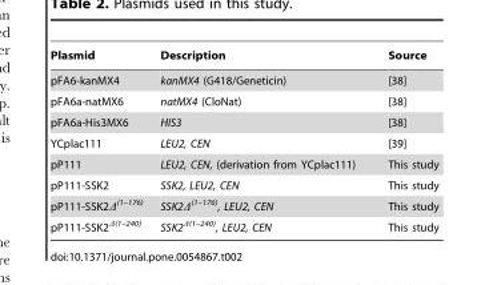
<table><thead><tr><td>Plasmid</td><td>Description</td><td>Source</td></tr></thead><tbody><tr><td>pFA6-kanMX4</td><td>kanMX4 (G418/Geneticin)</td><td>[38]</td></tr><tr><td>pFA6a-natMX6</td><td>natMX4 (CloNat)</td><td>[38]</td></tr><tr><td>pFA6a-His3MX6</td><td>HIS3</td><td>[38]</td></tr><tr><td>YCplac111</td><td>LEU2, CEN</td><td>[39]</td></tr><tr><td>pP111</td><td>LEU2, CEN, (derivation from YCplac111)</td><td>This study</td></tr><tr><td>pP111-SSK2</td><td>SSK2, LEU2, CEN</td><td>This study</td></tr><tr><td>pP111-SSK2Δ<sup>(1–176)</sup></td><td>SSK2Δ<sup>(1–176)</sup>, LEU2, CEN</td><td>This study</td></tr><tr><td>pP111-SSK2<sup>Δ(1–240)</sup></td><td>SSK2<sup>Δ(1–240)</sup>, LEU2, CEN</td><td>This study</td></tr></tbody></table>